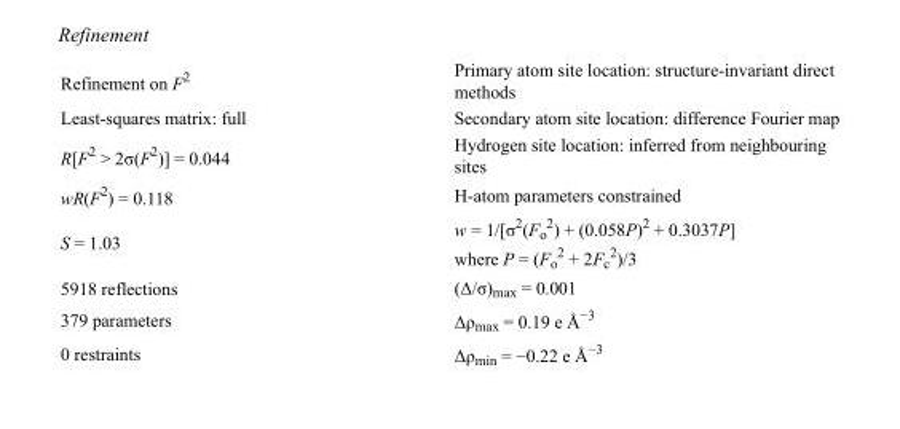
<table><tbody><tr><td>Refinement on F<sup>2</sup></td><td>Primary atom site location: structure-invariant direct methods</td></tr><tr><td>Least-squares matrix: full</td><td>Secondary atom site location: difference Fourier map</td></tr><tr><td>R[F<sup>2</sup> &gt; 2σ(F<sup>2</sup>)] = 0.044</td><td>Hydrogen site location: inferred from neighbouring sites</td></tr><tr><td>wR(F<sup>2</sup>) = 0.118</td><td>H-atom parameters constrained</td></tr><tr><td>S = 1.03</td><td>w = 1/[σ<sup>2</sup>(F<sub>o</sub> <sup>2</sup>) + (0.058P)<sup>2</sup> + 0.3037P] where P = (F<sub>o</sub> <sup>2</sup> + 2F<sub>c</sub> <sup>2</sup>)/3</td></tr><tr><td>5918 reflections</td><td>(Δ/σ)<sub>max</sub> = 0.001</td></tr><tr><td>379 parameters</td><td>Δρ<sub>max</sub> = 0.19 e Å<sup>−3</sup></td></tr><tr><td>0 restraints</td><td>Δρ<sub>min</sub> = −0.22 e Å<sup>−3</sup></td></tr></tbody></table>